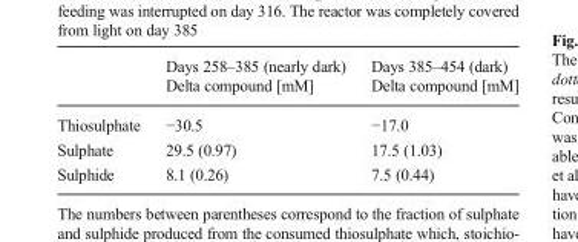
<table><thead><tr><td rowspan="2"></td><td rowspan="2">Days 258–385 (nearly dark) Delta compound [mM]</td><td rowspan="2">Days 385–454 (dark) Delta compound [mM]</td></tr><tr></tr></thead><tbody><tr><td>Thiosulphate</td><td>−30.5</td><td>−17.0</td></tr><tr><td>Sulphate</td><td>29.5 (0.97)</td><td>17.5 (1.03)</td></tr><tr><td>Sulphide</td><td>8.1 (0.26)</td><td>7.5 (0.44)</td></tr></tbody></table>